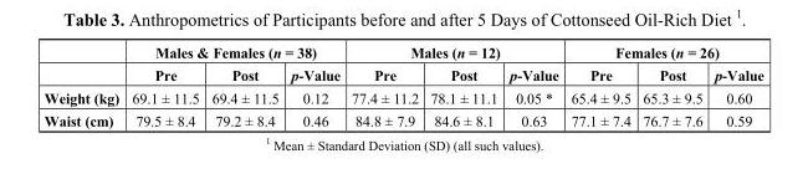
<table><thead><tr><td rowspan="2"></td><td colspan="3">Males &amp; Females (n = 38)</td><td colspan="3">Males (n = 12)</td><td colspan="3">Females (n = 26)</td></tr><tr><td>Pre</td><td>Post</td><td>p-Value</td><td>Pre</td><td>Post</td><td>p-Value</td><td>Pre</td><td>Post</td><td>p-Value</td></tr></thead><tbody><tr><td>Weight (kg)</td><td>69.1 ± 11.5</td><td>69.4 ± 11.5</td><td>0.12</td><td>77.4 ± 11.2</td><td>78.1 ± 11.1</td><td>0.05 *</td><td>65.4 ± 9.5</td><td>65.3 ± 9.5</td><td>0.60</td></tr><tr><td>Waist (cm)</td><td>79.5 ± 8.4</td><td>79.2 ± 8.4</td><td>0.46</td><td>84.8 ± 7.9</td><td>84.6 ± 8.1</td><td>0.63</td><td>77.1 ± 7.4</td><td>76.7 ± 7.6</td><td>0.59</td></tr></tbody></table>